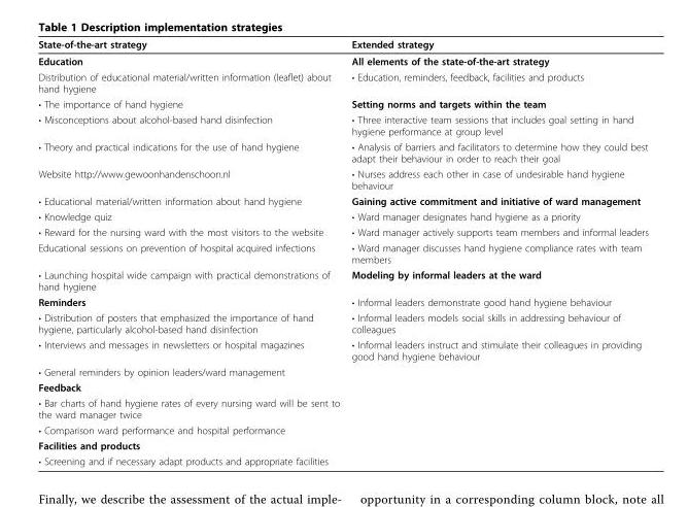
<table><thead><tr><td>State-of-the-art strategy</td><td>Extended strategy</td></tr></thead><tbody><tr><td>Education</td><td>All elements of the state-of-the-art strategy</td></tr><tr><td>Distribution of educational material/written information (leaflet) about hand hygiene</td><td>• Education, reminders, feedback, facilities and products</td></tr><tr><td>• The importance of hand hygiene</td><td>Setting norms and targets within the team</td></tr><tr><td>• Misconceptions about alcohol-based hand disinfection</td><td>• Three interactive team sessions that includes goal setting in hand hygiene performance at group level</td></tr><tr><td>• Theory and practical indications for the use of hand hygiene</td><td>• Analysis of barriers and facilitators to determine how they could best adapt their behaviour in order to reach their goal</td></tr><tr><td>Website http://www.gewoonhandenschoon.nl</td><td>• Nurses address each other in case of undesirable hand hygiene behaviour</td></tr><tr><td>• Educational material/written information about hand hygiene</td><td>Gaining active commitment and initiative of ward management</td></tr><tr><td>• Knowledge quiz</td><td>• Ward manager designates hand hygiene as a priority</td></tr><tr><td>• Reward for the nursing ward with the most visitors to the website</td><td>• Ward manager actively supports team members and informal leaders</td></tr><tr><td>Educational sessions on prevention of hospital acquired infections</td><td>• Ward manager discusses hand hygiene compliance rates with team members</td></tr><tr><td>• Launching hospital wide campaign with practical demonstrations of hand hygiene</td><td>Modeling by informal leaders at the ward</td></tr><tr><td>Reminders</td><td>• Informal leaders demonstrate good hand hygiene behaviour</td></tr><tr><td>• Distribution of posters that emphasized the importance of hand hygiene, particularly alcohol-based hand disinfection</td><td>• Informal leaders models social skills in addressing behaviour of colleagues</td></tr><tr><td>• Interviews and messages in newsletters or hospital magazines</td><td>• Informal leaders instruct and stimulate their colleagues in providing good hand hygiene behaviour</td></tr><tr><td colspan="2">• General reminders by opinion leaders/ward management</td></tr><tr><td colspan="2">Feedback</td></tr><tr><td colspan="2">• Bar charts of hand hygiene rates of every nursing ward will be sent to the ward manager twice</td></tr><tr><td colspan="2">• Comparison ward performance and hospital performance</td></tr><tr><td colspan="2">Facilities and products</td></tr><tr><td>• Screening and if necessary adapt products and appropriate facilities</td><td></td></tr></tbody></table>